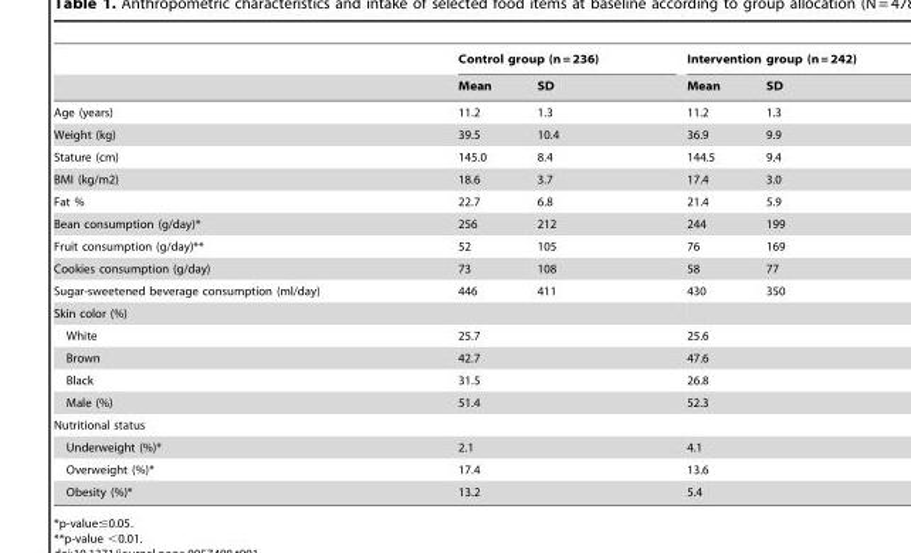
<table><thead><tr><td rowspan="2"></td><td colspan="2">Control group (n = 236)</td><td colspan="2">Intervention group (n = 242)</td></tr><tr><td>Mean</td><td>SD</td><td>Mean</td><td>SD</td></tr></thead><tbody><tr><td>Age (years)</td><td>11.2</td><td>1.3</td><td>11.2</td><td>1.3</td></tr><tr><td>Weight (kg)</td><td>39.5</td><td>10.4</td><td>36.9</td><td>9.9</td></tr><tr><td>Stature (cm)</td><td>145.0</td><td>8.4</td><td>144.5</td><td>9.4</td></tr><tr><td>BMI (kg/m2)</td><td>18.6</td><td>3.7</td><td>17.4</td><td>3.0</td></tr><tr><td>Fat %</td><td>22.7</td><td>6.8</td><td>21.4</td><td>5.9</td></tr><tr><td>Bean consumption (g/day)*</td><td>256</td><td>212</td><td>244</td><td>199</td></tr><tr><td>Fruit consumption (g/day)**</td><td>52</td><td>105</td><td>76</td><td>169</td></tr><tr><td>Cookies consumption (g/day)</td><td>73</td><td>108</td><td>58</td><td>77</td></tr><tr><td>Sugar-sweetened beverage consumption (ml/day)</td><td>446</td><td>411</td><td>430</td><td>350</td></tr><tr><td colspan="5">Skin color (%)</td></tr><tr><td>White</td><td colspan="2">25.7</td><td colspan="2">25.6</td></tr><tr><td>Brown</td><td colspan="2">42.7</td><td colspan="2">47.6</td></tr><tr><td>Black</td><td colspan="2">31.5</td><td colspan="2">26.8</td></tr><tr><td>Male (%)</td><td colspan="2">51.4</td><td colspan="2">52.3</td></tr><tr><td colspan="5">Nutritional status</td></tr><tr><td>Underweight (%)*</td><td colspan="2">2.1</td><td colspan="2">4.1</td></tr><tr><td>Overweight (%)*</td><td colspan="2">17.4</td><td colspan="2">13.6</td></tr><tr><td>Obesity (%)*</td><td colspan="2">13.2</td><td colspan="2">5.4</td></tr></tbody></table>